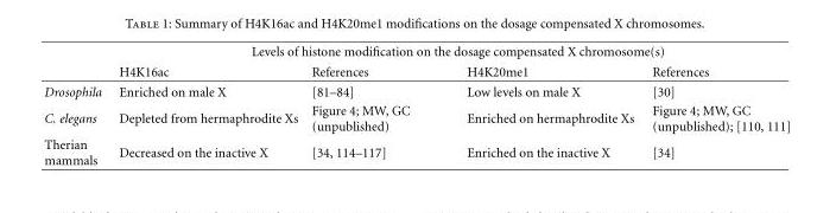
<table><thead><tr><td rowspan="2"></td><td colspan="4">Levels of histone modification on the dosage compensated X chromosome(s)</td></tr><tr><td>H4K16ac</td><td>References</td><td>H4K20me1</td><td>References</td></tr></thead><tbody><tr><td>Drosophila</td><td>Enriched on male X</td><td>[81–84]</td><td>Low levels on male X</td><td>[30]</td></tr><tr><td>C. elegans</td><td>Depleted from hermaphrodite Xs</td><td>Figure 4; MW, GC (unpublished)</td><td>Enriched on hermaphrodite Xs</td><td>Figure 4; MW, GC (unpublished); [110, 111]</td></tr><tr><td>Therian mammals</td><td>Decreased on the inactive X</td><td>[34, 114–117]</td><td>Enriched on the inactive X</td><td>[34]</td></tr></tbody></table>